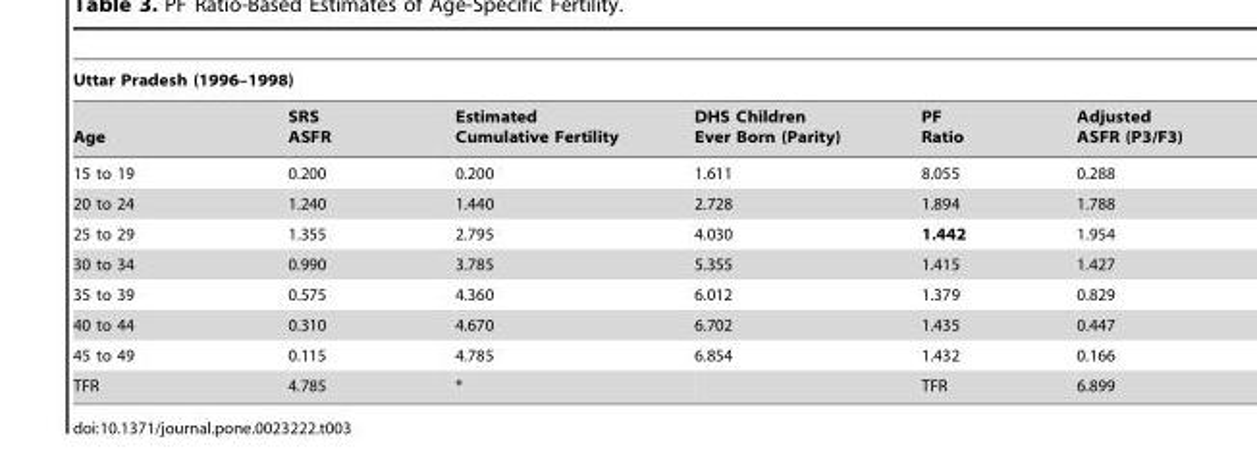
<table><thead><tr><td colspan="6">Uttar Pradesh (1996–1998)</td></tr><tr><td>Age</td><td>SRS ASFR</td><td>Estimated Cumulative Fertility</td><td>DHS Children Ever Born (Parity)</td><td>PF Ratio</td><td>Adjusted ASFR (P3/F3)</td></tr></thead><tbody><tr><td>15 to 19</td><td>0.200</td><td>0.200</td><td>1.611</td><td>8.055</td><td>0.288</td></tr><tr><td>20 to 24</td><td>1.240</td><td>1.440</td><td>2.728</td><td>1.894</td><td>1.788</td></tr><tr><td>25 to 29</td><td>1.355</td><td>2.795</td><td>4.030</td><td>1.442</td><td>1.954</td></tr><tr><td>30 to 34</td><td>0.990</td><td>3.785</td><td>5.355</td><td>1.415</td><td>1.427</td></tr><tr><td>35 to 39</td><td>0.575</td><td>4.360</td><td>6.012</td><td>1.379</td><td>0.829</td></tr><tr><td>40 to 44</td><td>0.310</td><td>4.670</td><td>6.702</td><td>1.435</td><td>0.447</td></tr><tr><td>45 to 49</td><td>0.115</td><td>4.785</td><td>6.854</td><td>1.432</td><td>0.166</td></tr><tr><td>TFR</td><td>4.785</td><td>*</td><td></td><td>TFR</td><td>6.899</td></tr></tbody></table>